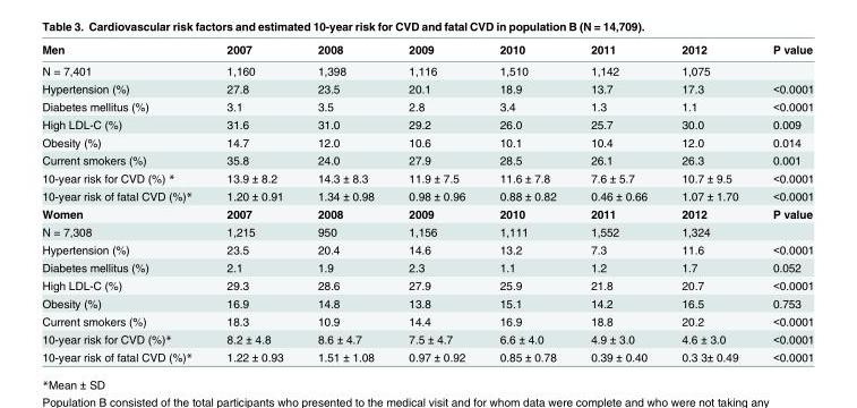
<table><thead><tr><td>Men</td><td>2007</td><td>2008</td><td>2009</td><td>2010</td><td>2011</td><td>2012</td><td>P value</td></tr></thead><tbody><tr><td>N = 7,401</td><td>1,160</td><td>1,398</td><td>1,116</td><td>1,510</td><td>1,142</td><td>1,075</td><td></td></tr><tr><td>Hypertension (%)</td><td>27.8</td><td>23.5</td><td>20.1</td><td>18.9</td><td>13.7</td><td>17.3</td><td>&lt;0.0001</td></tr><tr><td>Diabetes mellitus (%)</td><td>3.1</td><td>3.5</td><td>2.8</td><td>3.4</td><td>1.3</td><td>1.1</td><td>&lt;0.0001</td></tr><tr><td>High LDL-C (%)</td><td>31.6</td><td>31.0</td><td>29.2</td><td>26.0</td><td>25.7</td><td>30.0</td><td>0.009</td></tr><tr><td>Obesity (%)</td><td>14.7</td><td>12.0</td><td>10.6</td><td>10.1</td><td>10.4</td><td>12.0</td><td>0.014</td></tr><tr><td>Current smokers (%)</td><td>35.8</td><td>24.0</td><td>27.9</td><td>28.5</td><td>26.1</td><td>26.3</td><td>0.001</td></tr><tr><td>10-year risk for CVD (%) *</td><td>13.9 ± 8.2</td><td>14.3 ± 8.3</td><td>11.9 ± 7.5</td><td>11.6 ± 7.8</td><td>7.6 ± 5.7</td><td>10.7 ± 9.5</td><td>&lt;0.0001</td></tr><tr><td>10-year risk of fatal CVD (%)*</td><td>1.20 ± 0.91</td><td>1.34 ± 0.98</td><td>0.98 ± 0.96</td><td>0.88 ± 0.82</td><td>0.46 ± 0.66</td><td>1.07 ± 1.70</td><td>&lt;0.0001</td></tr><tr><td>Women</td><td>2007</td><td>2008</td><td>2009</td><td>2010</td><td>2011</td><td>2012</td><td>P value</td></tr><tr><td>N = 7,308</td><td>1,215</td><td>950</td><td>1,156</td><td>1,111</td><td>1,552</td><td>1,324</td><td></td></tr><tr><td>Hypertension (%)</td><td>23.5</td><td>20.4</td><td>14.6</td><td>13.2</td><td>7.3</td><td>11.6</td><td>&lt;0.0001</td></tr><tr><td>Diabetes mellitus (%)</td><td>2.1</td><td>1.9</td><td>2.3</td><td>1.1</td><td>1.2</td><td>1.7</td><td>0.052</td></tr><tr><td>High LDL-C (%)</td><td>29.3</td><td>28.6</td><td>27.9</td><td>25.9</td><td>21.8</td><td>20.7</td><td>&lt;0.0001</td></tr><tr><td>Obesity (%)</td><td>16.9</td><td>14.8</td><td>13.8</td><td>15.1</td><td>14.2</td><td>16.5</td><td>0.753</td></tr><tr><td>Current smokers (%)</td><td>18.3</td><td>10.9</td><td>14.4</td><td>16.9</td><td>18.8</td><td>20.2</td><td>&lt;0.0001</td></tr><tr><td>10-year risk for CVD (%)*</td><td>8.2 ± 4.8</td><td>8.6 ± 4.7</td><td>7.5 ± 4.7</td><td>6.6 ± 4.0</td><td>4.9 ± 3.0</td><td>4.6 ± 3.0</td><td>&lt;0.0001</td></tr><tr><td>10-year risk of fatal CVD (%)*</td><td>1.22 ± 0.93</td><td>1.51 ± 1.08</td><td>0.97 ± 0.92</td><td>0.85 ± 0.78</td><td>0.39 ± 0.40</td><td>0.3 3± 0.49</td><td>&lt;0.0001</td></tr></tbody></table>